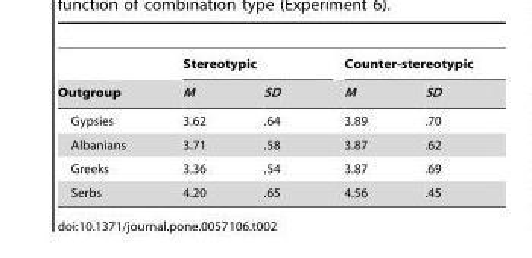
<table><thead><tr><td rowspan="2">Outgroup</td><td colspan="2">Stereotypic</td><td colspan="2">Counter-stereotypic</td></tr><tr><td>M</td><td>SD</td><td>M</td><td>SD</td></tr></thead><tbody><tr><td>Gypsies</td><td>3.62</td><td>.64</td><td>3.89</td><td>.70</td></tr><tr><td>Albanians</td><td>3.71</td><td>.58</td><td>3.87</td><td>.62</td></tr><tr><td>Greeks</td><td>3.36</td><td>.54</td><td>3.87</td><td>.69</td></tr><tr><td>Serbs</td><td>4.20</td><td>.65</td><td>4.56</td><td>.45</td></tr></tbody></table>